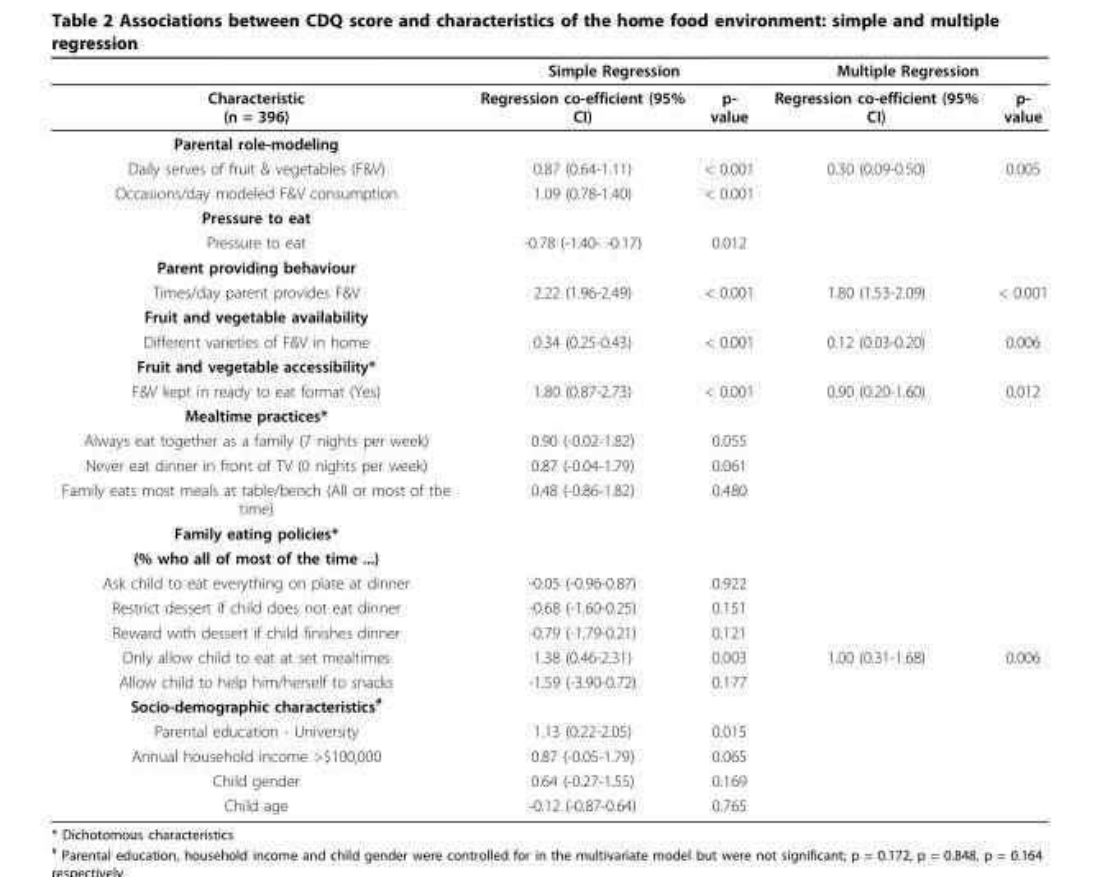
<table><thead><tr><td rowspan="2">Characteristic (n = 396)</td><td colspan="2">Simple Regression</td><td colspan="2">Multiple Regression</td></tr><tr><td>Regression co-efficient (95% CI)</td><td>p- value</td><td>Regression co-efficient (95% CI)</td><td>p- value</td></tr></thead><tbody><tr><td colspan="5">Parental role-modeling</td></tr><tr><td>Daily serves of fruit &amp; vegetables (F&amp;V)</td><td>0.87 (0.64-1.11)</td><td>&lt; 0.001</td><td>0.30 (0.09-0.50)</td><td>0.005</td></tr><tr><td>Occasions/day modeled F&amp;V consumption</td><td>1.09 (0.78-1.40)</td><td>&lt; 0.001</td><td></td><td></td></tr><tr><td colspan="5">Pressure to eat</td></tr><tr><td>Pressure to eat</td><td>-0.78 (-1.40- -0.17)</td><td>0.012</td><td></td><td></td></tr><tr><td colspan="5">Parent providing behaviour</td></tr><tr><td>Times/day parent provides F&amp;V</td><td>2.22 (1.96-2.49)</td><td>&lt; 0.001</td><td>1.80 (1.53-2.09)</td><td>&lt; 0.001</td></tr><tr><td colspan="5">Fruit and vegetable availability</td></tr><tr><td>Different varieties of F&amp;V in home</td><td>0.34 (0.25-0.43)</td><td>&lt; 0.001</td><td>0.12 (0.03-0.20)</td><td>0.006</td></tr><tr><td colspan="5">Fruit and vegetable accessibility*</td></tr><tr><td>F&amp;V kept in ready to eat format (Yes)</td><td>1.80 (0.87-2.73)</td><td>&lt; 0.001</td><td>0.90 (0.20-1.60)</td><td>0.012</td></tr><tr><td colspan="5">Mealtime practices*</td></tr><tr><td>Always eat together as a family (7 nights per week)</td><td>0.90 (-0.02-1.82)</td><td>0.055</td><td></td><td></td></tr><tr><td>Never eat dinner in front of TV (0 nights per week)</td><td>0.87 (-0.04-1.79)</td><td>0.061</td><td></td><td></td></tr><tr><td>Family eats most meals at table/bench (All or most of the time)</td><td>0.48 (-0.86-1.82)</td><td>0.480</td><td></td><td></td></tr><tr><td colspan="5">Family eating policies*</td></tr><tr><td colspan="5">(% who all of most of the time ...)</td></tr><tr><td>Ask child to eat everything on plate at dinner</td><td>-0.05 (-0.96-0.87)</td><td>0.922</td><td></td><td></td></tr><tr><td>Restrict dessert if child does not eat dinner</td><td>-0.68 (-1.60-0.25)</td><td>0.151</td><td></td><td></td></tr><tr><td>Reward with dessert if child finishes dinner</td><td>-0.79 (-1.79-0.21)</td><td>0.121</td><td></td><td></td></tr><tr><td>Only allow child to eat at set mealtimes</td><td>1.38 (0.46-2.31)</td><td>0.003</td><td>1.00 (0.31-1.68)</td><td>0.006</td></tr><tr><td>Allow child to help him/herself to snacks</td><td>-1.59 (-3.90-0.72)</td><td>0.177</td><td></td><td></td></tr><tr><td colspan="5">Socio-demographic characteristics<sup>#</sup></td></tr><tr><td>Parental education - University</td><td>1.13 (0.22-2.05)</td><td>0.015</td><td></td><td></td></tr><tr><td>Annual household income &gt;$100,000</td><td>0.87 (-0.05-1.79)</td><td>0.065</td><td></td><td></td></tr><tr><td>Child gender</td><td>0.64 (-0.27-1.55)</td><td>0.169</td><td></td><td></td></tr><tr><td>Child age</td><td>-0.12 (-0.87-0.64)</td><td>0.765</td><td></td><td></td></tr></tbody></table>